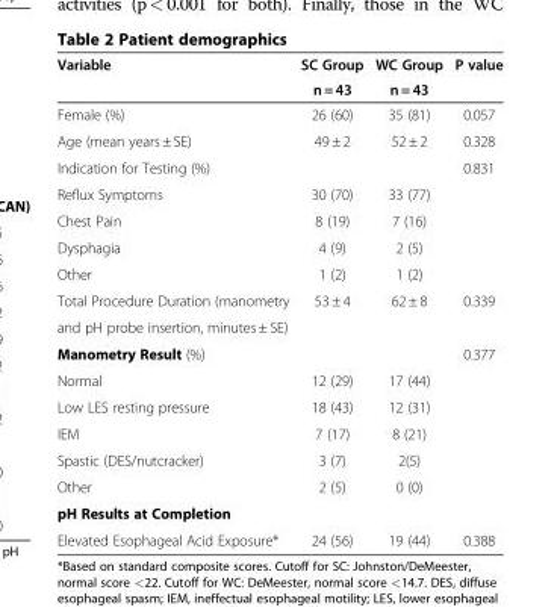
<table><thead><tr><td rowspan="2">Variable</td><td rowspan="2">SC Group n = 43</td><td rowspan="2">WC Group n = 43</td><td rowspan="2">P value</td></tr><tr></tr></thead><tbody><tr><td>Female (%)</td><td>26 (60)</td><td>35 (81)</td><td>0.057</td></tr><tr><td>Age (mean years ± SE)</td><td>49 ± 2</td><td>52 ± 2</td><td>0.328</td></tr><tr><td>Indication for Testing (%)</td><td></td><td></td><td>0.831</td></tr><tr><td>Reflux Symptoms</td><td>30 (70)</td><td>33 (77)</td><td></td></tr><tr><td>Chest Pain</td><td>8 (19)</td><td>7 (16)</td><td></td></tr><tr><td>Dysphagia</td><td>4 (9)</td><td>2 (5)</td><td></td></tr><tr><td>Other</td><td>1 (2)</td><td>1 (2)</td><td></td></tr><tr><td>Total Procedure Duration (manometry</td><td>53 ± 4</td><td>62 ± 8</td><td>0.339</td></tr><tr><td colspan="4">and pH probe insertion, minutes ± SE)</td></tr><tr><td>Manometry Result (%)</td><td></td><td></td><td>0.377</td></tr><tr><td>Normal</td><td>12 (29)</td><td>17 (44)</td><td></td></tr><tr><td>Low LES resting pressure</td><td>18 (43)</td><td>12 (31)</td><td></td></tr><tr><td>IEM</td><td>7 (17)</td><td>8 (21)</td><td></td></tr><tr><td>Spastic (DES/nutcracker)</td><td>3 (7)</td><td>2(5)</td><td></td></tr><tr><td>Other</td><td>2 (5)</td><td>0 (0)</td><td></td></tr><tr><td colspan="4">pH Results at Completion</td></tr><tr><td>Elevated Esophageal Acid Exposure*</td><td>24 (56)</td><td>19 (44)</td><td>0.388</td></tr></tbody></table>